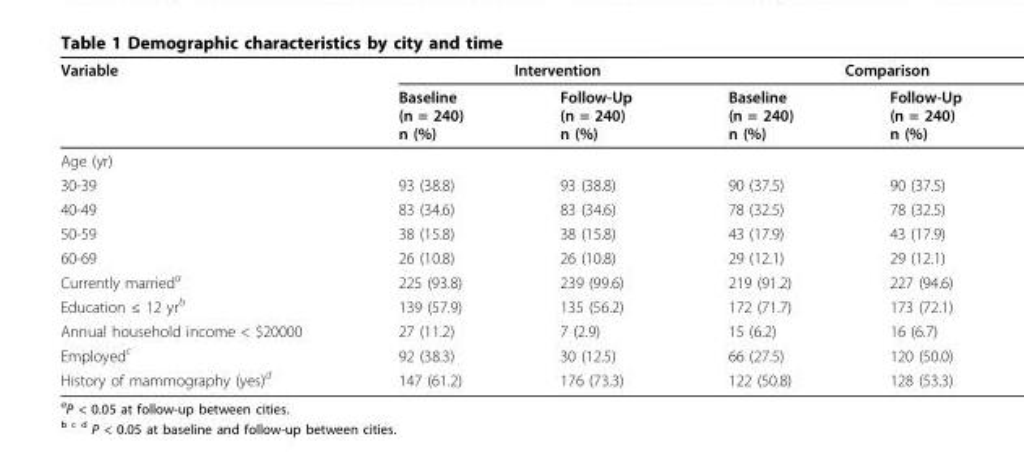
<table><thead><tr><td rowspan="2">Variable</td><td colspan="2">Intervention</td><td colspan="2">Comparison</td></tr><tr><td>Baseline (n = 240) n (%)</td><td>Follow-Up (n = 240) n (%)</td><td>Baseline (n = 240) n (%)</td><td>Follow-Up (n = 240) n (%)</td></tr></thead><tbody><tr><td colspan="5">Age (yr)</td></tr><tr><td>30-39</td><td>93 (38.8)</td><td>93 (38.8)</td><td>90 (37.5)</td><td>90 (37.5)</td></tr><tr><td>40-49</td><td>83 (34.6)</td><td>83 (34.6)</td><td>78 (32.5)</td><td>78 (32.5)</td></tr><tr><td>50-59</td><td>38 (15.8)</td><td>38 (15.8)</td><td>43 (17.9)</td><td>43 (17.9)</td></tr><tr><td>60-69</td><td>26 (10.8)</td><td>26 (10.8)</td><td>29 (12.1)</td><td>29 (12.1)</td></tr><tr><td>Currently married<sup>a</sup></td><td>225 (93.8)</td><td>239 (99.6)</td><td>219 (91.2)</td><td>227 (94.6)</td></tr><tr><td>Education ≤ 12 yr<sup>b</sup></td><td>139 (57.9)</td><td>135 (56.2)</td><td>172 (71.7)</td><td>173 (72.1)</td></tr><tr><td>Annual household income &lt; $20000</td><td>27 (11.2)</td><td>7 (2.9)</td><td>15 (6.2)</td><td>16 (6.7)</td></tr><tr><td>Employed<sup>c</sup></td><td>92 (38.3)</td><td>30 (12.5)</td><td>66 (27.5)</td><td>120 (50.0)</td></tr><tr><td>History of mammography (yes)<sup>d</sup></td><td>147 (61.2)</td><td>176 (73.3)</td><td>122 (50.8)</td><td>128 (53.3)</td></tr></tbody></table>